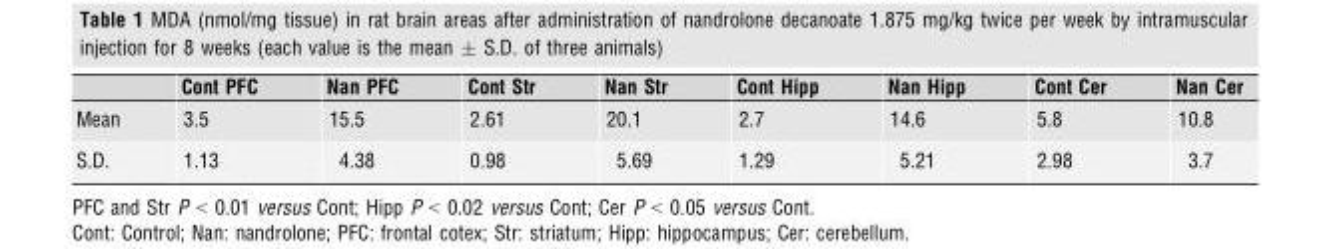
<table><thead><tr><td></td><td>Cont PFC</td><td>Nan PFC</td><td>Cont Str</td><td>Nan Str</td><td>Cont Hipp</td><td>Nan Hipp</td><td>Cont Cer</td><td>Nan Cer</td></tr></thead><tbody><tr><td>Mean</td><td>3.5</td><td>15.5</td><td>2.61</td><td>20.1</td><td>2.7</td><td>14.6</td><td>5.8</td><td>10.8</td></tr><tr><td>S.D.</td><td>1.13</td><td>4.38</td><td>0.98</td><td>5.69</td><td>1.29</td><td>5.21</td><td>2.98</td><td>3.7</td></tr></tbody></table>